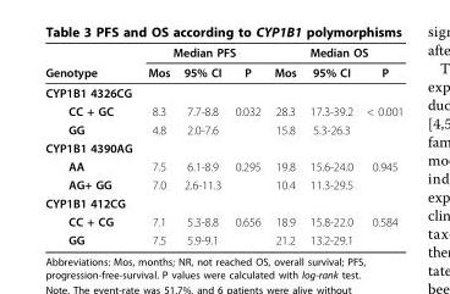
<table><thead><tr><td rowspan="2">Genotype</td><td colspan="3">Median PFS</td><td colspan="3">Median OS</td></tr><tr><td>Mos</td><td>95% CI</td><td>P</td><td>Mos</td><td>95% CI</td><td>P</td></tr></thead><tbody><tr><td colspan="7">CYP1B1 4326CG</td></tr><tr><td>CC + GC</td><td>8.3</td><td>7.7-8.8</td><td>0.032</td><td>28.3</td><td>17.3-39.2</td><td>&lt; 0.001</td></tr><tr><td>GG</td><td>4.8</td><td>2.0-7.6</td><td></td><td>15.8</td><td>5.3-26.3</td><td></td></tr><tr><td colspan="7">CYP1B1 4390AG</td></tr><tr><td>AA</td><td>7.5</td><td>6.1-8.9</td><td>0.295</td><td>19.8</td><td>15.6-24.0</td><td>0.945</td></tr><tr><td>AG+ GG</td><td>7.0</td><td>2.6-11.3</td><td></td><td>10.4</td><td>11.3-29.5</td><td></td></tr><tr><td colspan="7">CYP1B1 412CG</td></tr><tr><td>CC + CG</td><td>7.1</td><td>5.3-8.8</td><td>0.656</td><td>18.9</td><td>15.8-22.0</td><td>0.584</td></tr><tr><td>GG</td><td>7.5</td><td>5.9-9.1</td><td></td><td>21.2</td><td>13.2-29.1</td><td></td></tr></tbody></table>